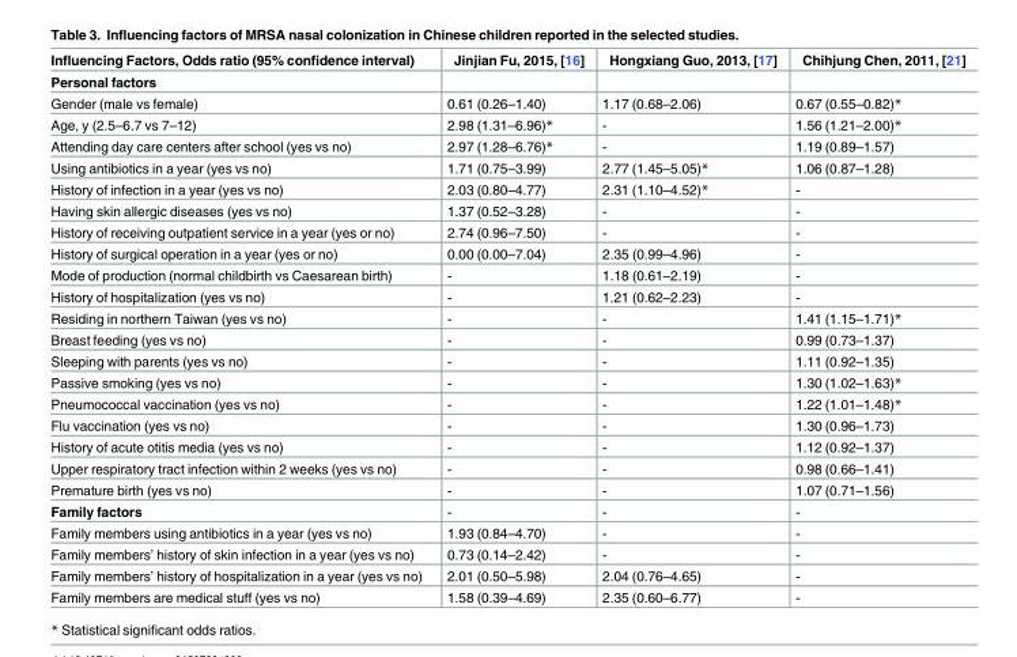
<table><thead><tr><td>Influencing Factors, Odds ratio (95% confidence interval)</td><td>Jinjian Fu, 2015, [16]</td><td>Hongxiang Guo, 2013, [17]</td><td>Chihjung Chen, 2011, [21]</td></tr></thead><tbody><tr><td colspan="4">Personal factors</td></tr><tr><td>Gender (male vs female)</td><td>0.61 (0.26–1.40)</td><td>1.17 (0.68–2.06)</td><td>0.67 (0.55–0.82)*</td></tr><tr><td>Age, y (2.5–6.7 vs 7–12)</td><td>2.98 (1.31–6.96)*</td><td>-</td><td>1.56 (1.21–2.00)*</td></tr><tr><td>Attending day care centers after school (yes vs no)</td><td>2.97 (1.28–6.76)*</td><td>-</td><td>1.19 (0.89–1.57)</td></tr><tr><td>Using antibiotics in a year (yes vs no)</td><td>1.71 (0.75–3.99)</td><td>2.77 (1.45–5.05)*</td><td>1.06 (0.87–1.28)</td></tr><tr><td>History of infection in a year (yes vs no)</td><td>2.03 (0.80–4.77)</td><td>2.31 (1.10–4.52)*</td><td>-</td></tr><tr><td>Having skin allergic diseases (yes vs no)</td><td>1.37 (0.52–3.28)</td><td>-</td><td>-</td></tr><tr><td>History of receiving outpatient service in a year (yes or no)</td><td>2.74 (0.96–7.50)</td><td>-</td><td>-</td></tr><tr><td>History of surgical operation in a year (yes or no)</td><td>0.00 (0.00–7.04)</td><td>2.35 (0.99–4.96)</td><td>-</td></tr><tr><td>Mode of production (normal childbirth vs Caesarean birth)</td><td>-</td><td>1.18 (0.61–2.19)</td><td>-</td></tr><tr><td>History of hospitalization (yes vs no)</td><td>-</td><td>1.21 (0.62–2.23)</td><td>-</td></tr><tr><td>Residing in northern Taiwan (yes vs no)</td><td>-</td><td>-</td><td>1.41 (1.15–1.71)*</td></tr><tr><td>Breast feeding (yes vs no)</td><td>-</td><td>-</td><td>0.99 (0.73–1.37)</td></tr><tr><td>Sleeping with parents (yes vs no)</td><td>-</td><td>-</td><td>1.11 (0.92–1.35)</td></tr><tr><td>Passive smoking (yes vs no)</td><td>-</td><td>-</td><td>1.30 (1.02–1.63)*</td></tr><tr><td>Pneumococcal vaccination (yes vs no)</td><td>-</td><td>-</td><td>1.22 (1.01–1.48)*</td></tr><tr><td>Flu vaccination (yes vs no)</td><td>-</td><td>-</td><td>1.30 (0.96–1.73)</td></tr><tr><td>History of acute otitis media (yes vs no)</td><td>-</td><td>-</td><td>1.12 (0.92–1.37)</td></tr><tr><td>Upper respiratory tract infection within 2 weeks (yes vs no)</td><td>-</td><td>-</td><td>0.98 (0.66–1.41)</td></tr><tr><td>Premature birth (yes vs no)</td><td>-</td><td>-</td><td>1.07 (0.71–1.56)</td></tr><tr><td>Family factors</td><td>-</td><td>-</td><td>-</td></tr><tr><td>Family members using antibiotics in a year (yes vs no)</td><td>1.93 (0.84–4.70)</td><td>-</td><td>-</td></tr><tr><td>Family members’ history of skin infection in a year (yes vs no)</td><td>0.73 (0.14–2.42)</td><td>-</td><td>-</td></tr><tr><td>Family members’ history of hospitalization in a year (yes vs no)</td><td>2.01 (0.50–5.98)</td><td>2.04 (0.76–4.65)</td><td>-</td></tr><tr><td>Family members are medical stuff (yes vs no)</td><td>1.58 (0.39–4.69)</td><td>2.35 (0.60–6.77)</td><td>-</td></tr></tbody></table>